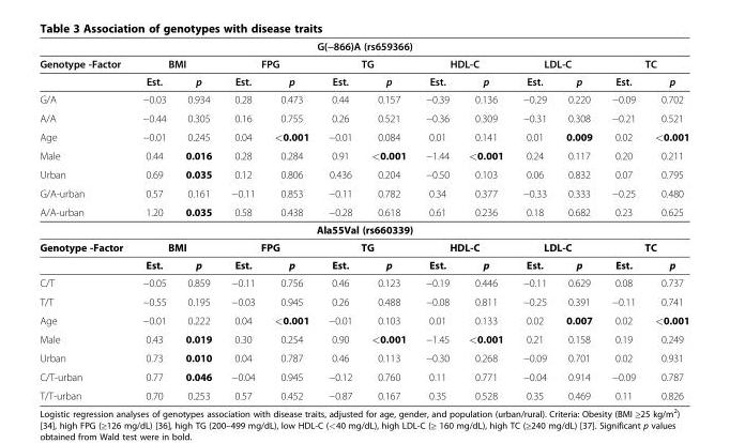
<table><thead><tr><td colspan="13">G(−866)A (rs659366)</td></tr><tr><td rowspan="2">Genotype -Factor</td><td colspan="2">BMI</td><td colspan="2">FPG</td><td colspan="2">TG</td><td colspan="2">HDL-C</td><td colspan="2">LDL-C</td><td colspan="2">TC</td></tr><tr><td>Est.</td><td>p</td><td>Est.</td><td>p</td><td>Est.</td><td>p</td><td>Est.</td><td>p</td><td>Est.</td><td>p</td><td>Est.</td><td>p</td></tr></thead><tbody><tr><td>G/A</td><td>−0.03</td><td>0.934</td><td>0.28</td><td>0.473</td><td>0.44</td><td>0.157</td><td>−0.39</td><td>0.136</td><td>−0.29</td><td>0.220</td><td>−0.09</td><td>0.702</td></tr><tr><td>A/A</td><td>−0.44</td><td>0.305</td><td>0.16</td><td>0.755</td><td>0.26</td><td>0.521</td><td>−0.36</td><td>0.309</td><td>−0.31</td><td>0.308</td><td>−0.21</td><td>0.521</td></tr><tr><td>Age</td><td>−0.01</td><td>0.245</td><td>0.04</td><td>&lt;0.001</td><td>−0.01</td><td>0.084</td><td>0.01</td><td>0.141</td><td>0.01</td><td>0.009</td><td>0.02</td><td>&lt;0.001</td></tr><tr><td>Male</td><td>0.44</td><td>0.016</td><td>0.28</td><td>0.284</td><td>0.91</td><td>&lt;0.001</td><td>−1.44</td><td>&lt;0.001</td><td>0.24</td><td>0.117</td><td>0.20</td><td>0.211</td></tr><tr><td>Urban</td><td>0.69</td><td>0.035</td><td>0.12</td><td>0.806</td><td>0.436</td><td>0.204</td><td>−0.50</td><td>0.103</td><td>0.06</td><td>0.832</td><td>0.07</td><td>0.795</td></tr><tr><td>G/A-urban</td><td>0.57</td><td>0.161</td><td>−0.11</td><td>0.853</td><td>−0.11</td><td>0.782</td><td>0.34</td><td>0.377</td><td>−0.33</td><td>0.333</td><td>−0.25</td><td>0.480</td></tr><tr><td>A/A-urban</td><td>1.20</td><td>0.035</td><td>0.58</td><td>0.438</td><td>−0.28</td><td>0.618</td><td>0.61</td><td>0.236</td><td>0.18</td><td>0.682</td><td>0.23</td><td>0.625</td></tr><tr><td colspan="13">Ala55Val (rs660339)</td></tr><tr><td rowspan="2">Genotype -Factor</td><td colspan="2">BMI</td><td colspan="2">FPG</td><td colspan="2">TG</td><td colspan="2">HDL-C</td><td colspan="2">LDL-C</td><td colspan="2">TC</td></tr><tr><td>Est.</td><td>p</td><td>Est.</td><td>p</td><td>Est.</td><td>p</td><td>Est.</td><td>p</td><td>Est.</td><td>p</td><td>Est.</td><td>p</td></tr><tr><td>C/T</td><td>−0.05</td><td>0.859</td><td>−0.11</td><td>0.756</td><td>0.46</td><td>0.123</td><td>−0.19</td><td>0.446</td><td>−0.11</td><td>0.629</td><td>0.08</td><td>0.737</td></tr><tr><td>T/T</td><td>−0.55</td><td>0.195</td><td>−0.03</td><td>0.945</td><td>0.26</td><td>0.488</td><td>−0.08</td><td>0.811</td><td>−0.25</td><td>0.391</td><td>−0.11</td><td>0.741</td></tr><tr><td>Age</td><td>−0.01</td><td>0.222</td><td>0.04</td><td>&lt;0.001</td><td>−0.01</td><td>0.103</td><td>0.01</td><td>0.133</td><td>0.02</td><td>0.007</td><td>0.02</td><td>&lt;0.001</td></tr><tr><td>Male</td><td>0.43</td><td>0.019</td><td>0.30</td><td>0.254</td><td>0.90</td><td>&lt;0.001</td><td>−1.45</td><td>&lt;0.001</td><td>0.21</td><td>0.158</td><td>0.19</td><td>0.249</td></tr><tr><td>Urban</td><td>0.73</td><td>0.010</td><td>0.04</td><td>0.787</td><td>0.46</td><td>0.113</td><td>−0.30</td><td>0.268</td><td>−0.09</td><td>0.701</td><td>0.02</td><td>0.931</td></tr><tr><td>C/T-urban</td><td>0.77</td><td>0.046</td><td>−0.04</td><td>0.945</td><td>−0.12</td><td>0.760</td><td>0.11</td><td>0.771</td><td>−0.04</td><td>0.914</td><td>−0.09</td><td>0.787</td></tr><tr><td>T/T-urban</td><td>0.70</td><td>0.253</td><td>0.57</td><td>0.452</td><td>−0.87</td><td>0.167</td><td>0.35</td><td>0.528</td><td>0.35</td><td>0.469</td><td>0.11</td><td>0.826</td></tr></tbody></table>